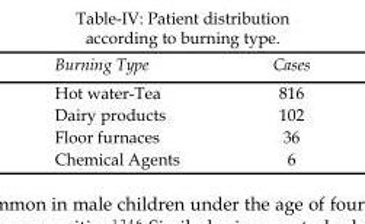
<table><thead><tr><td>Burning Type</td><td>Cases</td></tr></thead><tbody><tr><td>Hot water-Tea</td><td>816</td></tr><tr><td>Dairy products</td><td>102</td></tr><tr><td>Floor furnaces</td><td>36</td></tr><tr><td>Chemical Agents</td><td>6</td></tr></tbody></table>